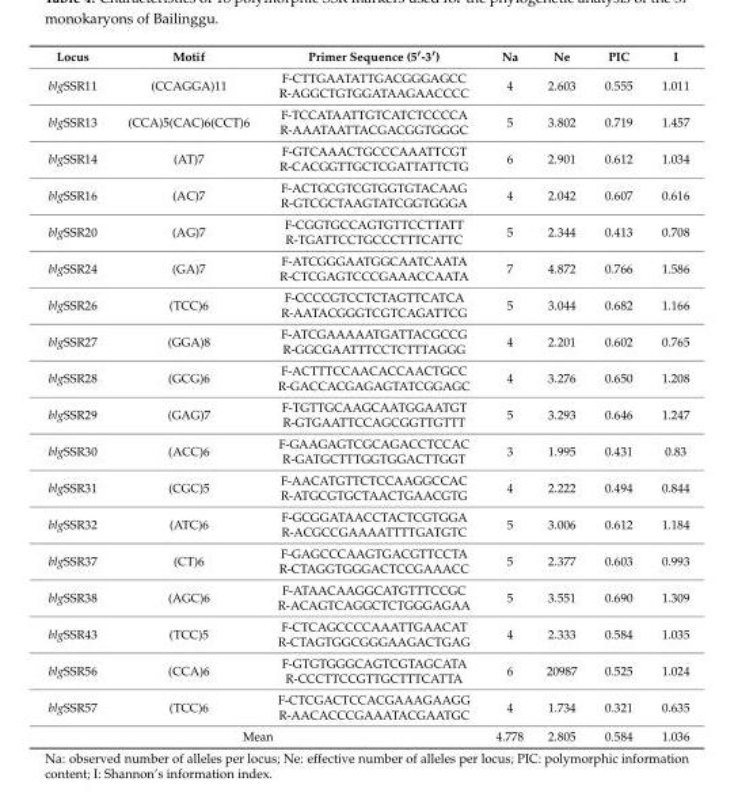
<table><thead><tr><td>Locus</td><td>Motif</td><td>Primer Sequence (5′-3′)</td><td>Na</td><td>Ne</td><td>PIC</td><td>I</td></tr></thead><tbody><tr><td>blgSSR11</td><td>(CCAGGA)11</td><td>F-CTTGAATATTGACGGGAGCC R-AGGCTGTGGATAAGAACCCC</td><td>4</td><td>2.603</td><td>0.555</td><td>1.011</td></tr><tr><td>blgSSR13</td><td>(CCA)5(CAC)6(CCT)6</td><td>F-TCCATAATTGTCATCTCCCCA R-AAATAATTACGACGGTGGGC</td><td>5</td><td>3.802</td><td>0.719</td><td>1.457</td></tr><tr><td>blgSSR14</td><td>(AT)7</td><td>F-GTCAAACTGCCCAAATTCGT R-CACGGTTGCTCGATTATTCTG</td><td>6</td><td>2.901</td><td>0.612</td><td>1.034</td></tr><tr><td>blgSSR16</td><td>(AC)7</td><td>F-ACTGCGTCGTGGTGTACAAG R-GTCGCTAAGTATCGGTGGGA</td><td>4</td><td>2.042</td><td>0.607</td><td>0.616</td></tr><tr><td>blgSSR20</td><td>(AG)7</td><td>F-CGGTGCCAGTGTTCCTTATT R-TGATTCCTGCCCTTTCATTC</td><td>5</td><td>2.344</td><td>0.413</td><td>0.708</td></tr><tr><td>blgSSR24</td><td>(GA)7</td><td>F-ATCGGGAATGGCAATCAATA R-CTCGAGTCCCGAAACCAATA</td><td>7</td><td>4.872</td><td>0.766</td><td>1.586</td></tr><tr><td>blgSSR26</td><td>(TCC)6</td><td>F-CCCCGTCCTCTAGTTCATCA R-AATACGGGTCGTCAGATTCG</td><td>5</td><td>3.044</td><td>0.682</td><td>1.166</td></tr><tr><td>blgSSR27</td><td>(GGA)8</td><td>F-ATCGAAAAATGATTACGCCG R-GGCGAATTTCCTCTTTAGGG</td><td>4</td><td>2.201</td><td>0.602</td><td>0.765</td></tr><tr><td>blgSSR28</td><td>(GCG)6</td><td>F-ACTTTCCAACACCAACTGCC R-GACCACGAGAGTATCGGAGC</td><td>4</td><td>3.276</td><td>0.650</td><td>1.208</td></tr><tr><td>blgSSR29</td><td>(GAG)7</td><td>F-TGTTGCAAGCAATGGAATGT R-GTGAATTCCAGCGGTTGTTT</td><td>5</td><td>3.293</td><td>0.646</td><td>1.247</td></tr><tr><td>blgSSR30</td><td>(ACC)6</td><td>F-GAAGAGTCGCAGACCTCCAC R-GATGCTTTGGTGGACTTGGT</td><td>3</td><td>1.995</td><td>0.431</td><td>0.83</td></tr><tr><td>blgSSR31</td><td>(CGC)5</td><td>F-AACATGTTCTCCAAGGCCAC R-ATGCGTGCTAACTGAACGTG</td><td>4</td><td>2.222</td><td>0.494</td><td>0.844</td></tr><tr><td>blgSSR32</td><td>(ATC)6</td><td>F-GCGGATAACCTACTCGTGGA R-ACGCCGAAAATTTTGATGTC</td><td>5</td><td>3.006</td><td>0.612</td><td>1.184</td></tr><tr><td>blgSSR37</td><td>(CT)6</td><td>F-GAGCCCAAGTGACGTTCCTA R-CTAGGTGGGACTCCGAAACC</td><td>5</td><td>2.377</td><td>0.603</td><td>0.993</td></tr><tr><td>blgSSR38</td><td>(AGC)6</td><td>F-ATAACAAGGCATGTTTCCGC R-ACAGTCAGGCTCTGGGAGAA</td><td>5</td><td>3.551</td><td>0.690</td><td>1.309</td></tr><tr><td>blgSSR43</td><td>(TCC)5</td><td>F-CTCAGCCCCAAATTGAACAT R-CTAGTGGCGGGAAGACTGAG</td><td>4</td><td>2.333</td><td>0.584</td><td>1.035</td></tr><tr><td>blgSSR56</td><td>(CCA)6</td><td>F-GTGTGGGCAGTCGTAGCATA R-CCCTTCCGTTGCTTTCATTA</td><td>6</td><td>20987</td><td>0.525</td><td>1.024</td></tr><tr><td>blgSSR57</td><td>(TCC)6</td><td>F-CTCGACTCCACGAAAGAAGG R-AACACCCGAAATACGAATGC</td><td>4</td><td>1.734</td><td>0.321</td><td>0.635</td></tr><tr><td colspan="3">Mean</td><td>4.778</td><td>2.805</td><td>0.584</td><td>1.036</td></tr></tbody></table>